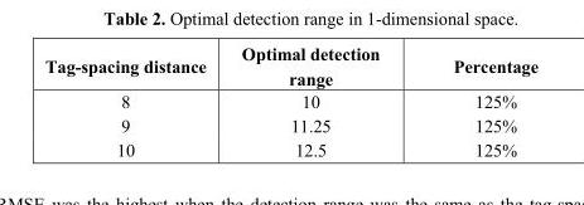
<table><thead><tr><td>Tag-spacing distance</td><td>Optimal detection range</td><td>Percentage</td></tr></thead><tbody><tr><td>8</td><td>10</td><td>125%</td></tr><tr><td>9</td><td>11.25</td><td>125%</td></tr><tr><td>10</td><td>12.5</td><td>125%</td></tr></tbody></table>